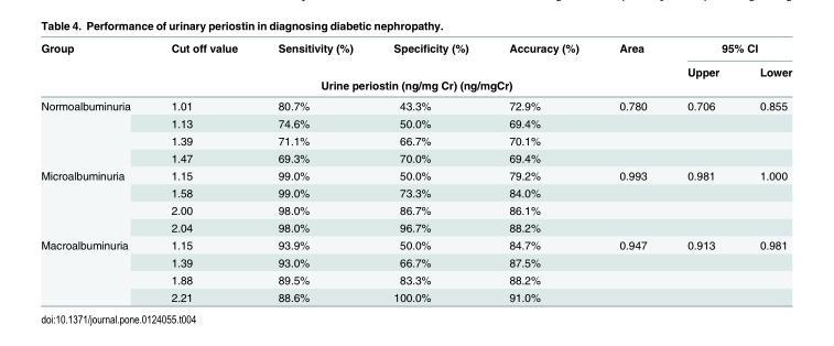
<table><thead><tr><td rowspan="2">Group</td><td rowspan="2">Cut off value</td><td rowspan="2">Sensitivity (%)</td><td rowspan="2">Specificity (%)</td><td rowspan="2">Accuracy (%)</td><td rowspan="2">Area</td><td colspan="2">95% CI</td></tr><tr><td>Upper</td><td>Lower</td></tr><tr><td colspan="8">Urine periostin (ng/mg Cr) (ng/mgCr)</td></tr></thead><tbody><tr><td rowspan="4">Normoalbuminuria</td><td>1.01</td><td>80.7%</td><td>43.3%</td><td>72.9%</td><td>0.780</td><td>0.706</td><td>0.855</td></tr><tr><td>1.13</td><td>74.6%</td><td>50.0%</td><td>69.4%</td><td></td><td></td><td></td></tr><tr><td>1.39</td><td>71.1%</td><td>66.7%</td><td>70.1%</td><td></td><td></td><td></td></tr><tr><td>1.47</td><td>69.3%</td><td>70.0%</td><td>69.4%</td><td></td><td></td><td></td></tr><tr><td rowspan="4">Microalbuminuria</td><td>1.15</td><td>99.0%</td><td>50.0%</td><td>79.2%</td><td>0.993</td><td>0.981</td><td>1.000</td></tr><tr><td>1.58</td><td>99.0%</td><td>73.3%</td><td>84.0%</td><td></td><td></td><td></td></tr><tr><td>2.00</td><td>98.0%</td><td>86.7%</td><td>86.1%</td><td></td><td></td><td></td></tr><tr><td>2.04</td><td>98.0%</td><td>96.7%</td><td>88.2%</td><td></td><td></td><td></td></tr><tr><td rowspan="4">Macroalbuminuria</td><td>1.15</td><td>93.9%</td><td>50.0%</td><td>84.7%</td><td>0.947</td><td>0.913</td><td>0.981</td></tr><tr><td>1.39</td><td>93.0%</td><td>66.7%</td><td>87.5%</td><td></td><td></td><td></td></tr><tr><td>1.88</td><td>89.5%</td><td>83.3%</td><td>88.2%</td><td></td><td></td><td></td></tr><tr><td>2.21</td><td>88.6%</td><td>100.0%</td><td>91.0%</td><td></td><td></td><td></td></tr></tbody></table>